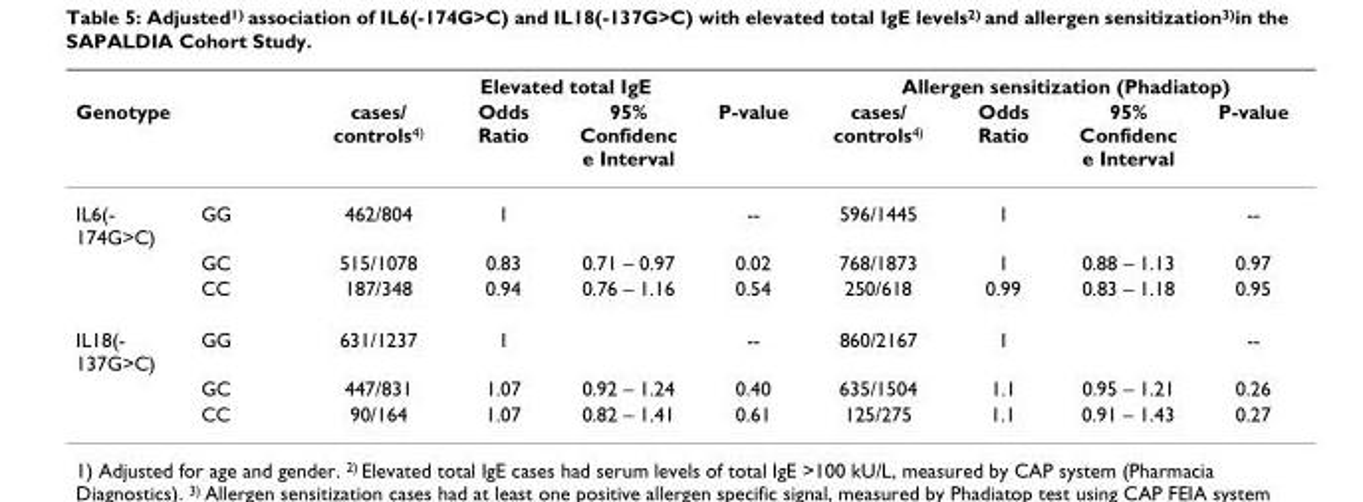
<table><thead><tr><td rowspan="2">Genotype</td><td rowspan="2"></td><td colspan="4">Elevated total IgE</td><td colspan="4">Allergen sensitization (Phadiatop)</td></tr><tr><td>cases/ controls<sup>4)</sup></td><td>Odds Ratio</td><td>95% Confidenc e Interval</td><td>P-value</td><td>cases/ controls<sup>4)</sup></td><td>Odds Ratio</td><td>95% Confidenc e Interval</td><td>P-value</td></tr></thead><tbody><tr><td rowspan="3">IL6(- 174G&gt;C)</td><td>GG</td><td>462/804</td><td>1</td><td></td><td>--</td><td>596/1445</td><td>1</td><td></td><td>--</td></tr><tr><td>GC</td><td>515/1078</td><td>0.83</td><td>0.71 – 0.97</td><td>0.02</td><td>768/1873</td><td>1</td><td>0.88 – 1.13</td><td>0.97</td></tr><tr><td>CC</td><td>187/348</td><td>0.94</td><td>0.76 – 1.16</td><td>0.54</td><td>250/618</td><td>0.99</td><td>0.83 – 1.18</td><td>0.95</td></tr><tr><td rowspan="3">IL18(- 137G&gt;C)</td><td>GG</td><td>631/1237</td><td>1</td><td></td><td>--</td><td>860/2167</td><td>1</td><td></td><td>--</td></tr><tr><td>GC</td><td>447/831</td><td>1.07</td><td>0.92 – 1.24</td><td>0.40</td><td>635/1504</td><td>1.1</td><td>0.95 – 1.21</td><td>0.26</td></tr><tr><td>CC</td><td>90/164</td><td>1.07</td><td>0.82 – 1.41</td><td>0.61</td><td>125/275</td><td>1.1</td><td>0.91 – 1.43</td><td>0.27</td></tr></tbody></table>